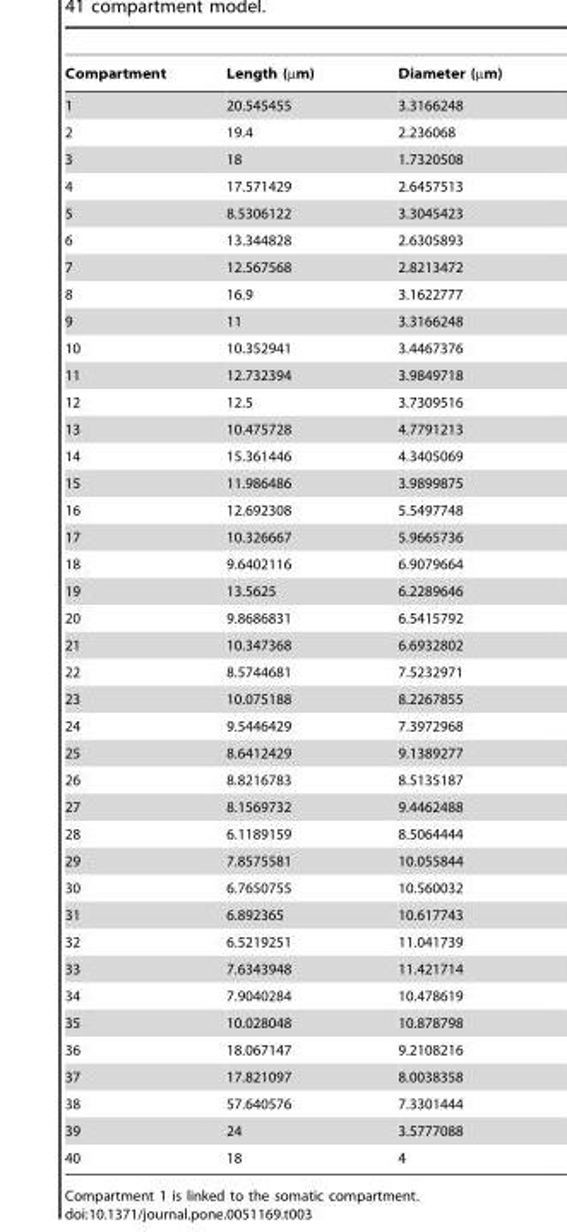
<table><thead><tr><td>Compartment</td><td>Length (µm)</td><td>Diameter (µm)</td></tr></thead><tbody><tr><td>1</td><td>20.545455</td><td>3.3166248</td></tr><tr><td>2</td><td>19.4</td><td>2.236068</td></tr><tr><td>3</td><td>18</td><td>1.7320508</td></tr><tr><td>4</td><td>17.571429</td><td>2.6457513</td></tr><tr><td>5</td><td>8.5306122</td><td>3.3045423</td></tr><tr><td>6</td><td>13.344828</td><td>2.6305893</td></tr><tr><td>7</td><td>12.567568</td><td>2.8213472</td></tr><tr><td>8</td><td>16.9</td><td>3.1622777</td></tr><tr><td>9</td><td>11</td><td>3.3166248</td></tr><tr><td>10</td><td>10.352941</td><td>3.4467376</td></tr><tr><td>11</td><td>12.732394</td><td>3.9849718</td></tr><tr><td>12</td><td>12.5</td><td>3.7309516</td></tr><tr><td>13</td><td>10.475728</td><td>4.7791213</td></tr><tr><td>14</td><td>15.361446</td><td>4.3405069</td></tr><tr><td>15</td><td>11.986486</td><td>3.9899875</td></tr><tr><td>16</td><td>12.692308</td><td>5.5497748</td></tr><tr><td>17</td><td>10.326667</td><td>5.9665736</td></tr><tr><td>18</td><td>9.6402116</td><td>6.9079664</td></tr><tr><td>19</td><td>13.5625</td><td>6.2289646</td></tr><tr><td>20</td><td>9.8686831</td><td>6.5415792</td></tr><tr><td>21</td><td>10.347368</td><td>6.6932802</td></tr><tr><td>22</td><td>8.5744681</td><td>7.5232971</td></tr><tr><td>23</td><td>10.075188</td><td>8.2267855</td></tr><tr><td>24</td><td>9.5446429</td><td>7.3972968</td></tr><tr><td>25</td><td>8.6412429</td><td>9.1389277</td></tr><tr><td>26</td><td>8.8216783</td><td>8.5135187</td></tr><tr><td>27</td><td>8.1569732</td><td>9.4462488</td></tr><tr><td>28</td><td>6.1189159</td><td>8.5064444</td></tr><tr><td>29</td><td>7.8575581</td><td>10.055844</td></tr><tr><td>30</td><td>6.7650755</td><td>10.560032</td></tr><tr><td>31</td><td>6.892365</td><td>10.617743</td></tr><tr><td>32</td><td>6.5219251</td><td>11.041739</td></tr><tr><td>33</td><td>7.6343948</td><td>11.421714</td></tr><tr><td>34</td><td>7.9040284</td><td>10.478619</td></tr><tr><td>35</td><td>10.028048</td><td>10.878798</td></tr><tr><td>36</td><td>18.067147</td><td>9.2108216</td></tr><tr><td>37</td><td>17.821097</td><td>8.0038358</td></tr><tr><td>38</td><td>57.640576</td><td>7.3301444</td></tr><tr><td>39</td><td>24</td><td>3.5777088</td></tr><tr><td>40</td><td>18</td><td>4</td></tr></tbody></table>